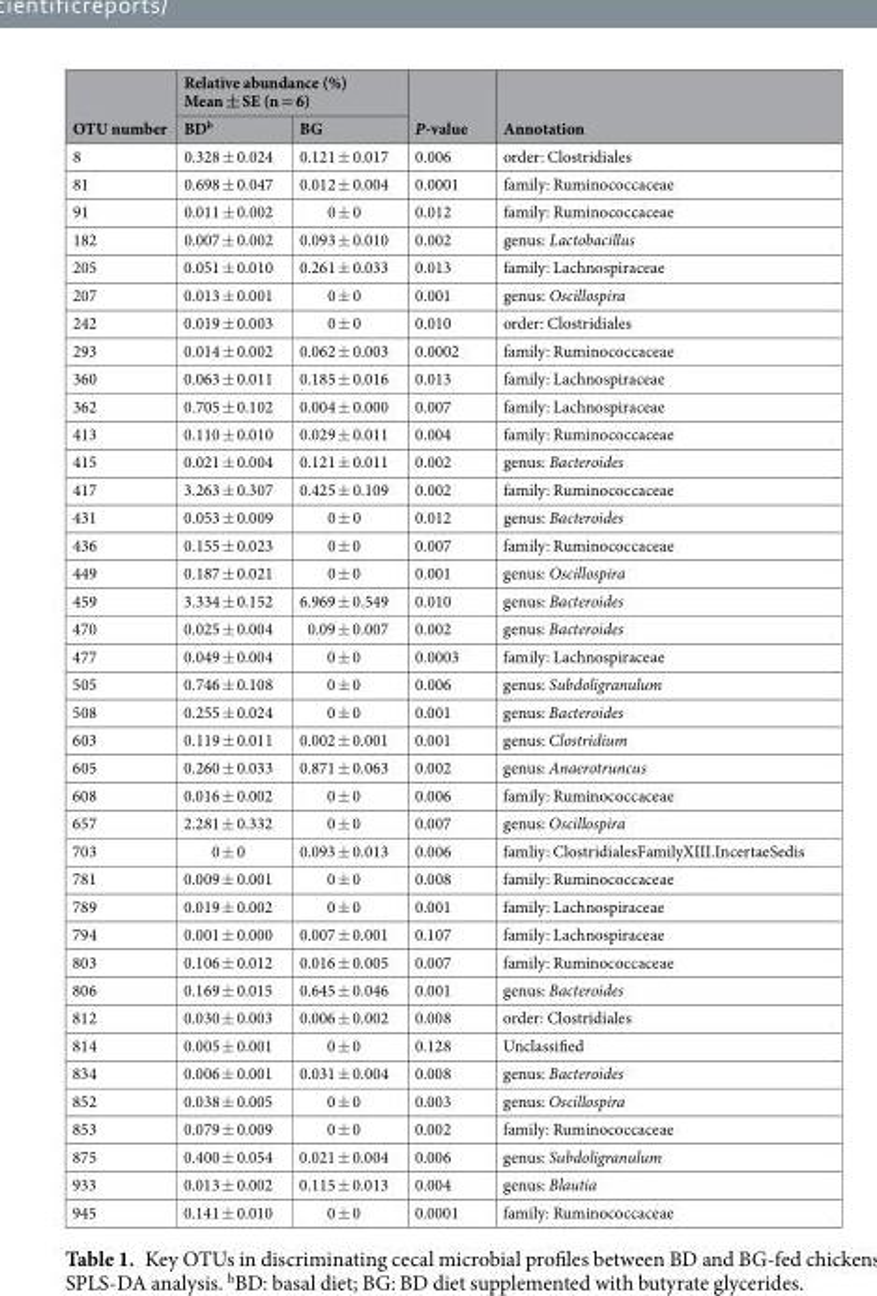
<table><thead><tr><td rowspan="2">OTU number</td><td colspan="2">Relative abundance (%) Mean ± SE (n = 6)</td><td rowspan="2">P-value</td><td rowspan="2">Annotation</td></tr><tr><td>BD<sup>b</sup></td><td>BG</td></tr></thead><tbody><tr><td>8</td><td>0.328 ± 0.024</td><td>0.121 ± 0.017</td><td>0.006</td><td>order: Clostridiales</td></tr><tr><td>81</td><td>0.698 ± 0.047</td><td>0.012 ± 0.004</td><td>0.0001</td><td>family: Ruminococcaceae</td></tr><tr><td>91</td><td>0.011 ± 0.002</td><td>0 ± 0</td><td>0.012</td><td>family: Ruminococcaceae</td></tr><tr><td>182</td><td>0.007 ± 0.002</td><td>0.093 ± 0.010</td><td>0.002</td><td>genus: Lactobacillus</td></tr><tr><td>205</td><td>0.051 ± 0.010</td><td>0.261 ± 0.033</td><td>0.013</td><td>family: Lachnospiraceae</td></tr><tr><td>207</td><td>0.013 ± 0.001</td><td>0 ± 0</td><td>0.001</td><td>genus: Oscillospira</td></tr><tr><td>242</td><td>0.019 ± 0.003</td><td>0 ± 0</td><td>0.010</td><td>order: Clostridiales</td></tr><tr><td>293</td><td>0.014 ± 0.002</td><td>0.062 ± 0.003</td><td>0.0002</td><td>family: Ruminococcaceae</td></tr><tr><td>360</td><td>0.063 ± 0.011</td><td>0.185 ± 0.016</td><td>0.013</td><td>family: Lachnospiraceae</td></tr><tr><td>362</td><td>0.705 ± 0.102</td><td>0.004 ± 0.000</td><td>0.007</td><td>family: Lachnospiraceae</td></tr><tr><td>413</td><td>0.110 ± 0.010</td><td>0.029 ± 0.011</td><td>0.004</td><td>family: Ruminococcaceae</td></tr><tr><td>415</td><td>0.021 ± 0.004</td><td>0.121 ± 0.011</td><td>0.002</td><td>genus: Bacteroides</td></tr><tr><td>417</td><td>3.263 ± 0.307</td><td>0.425 ± 0.109</td><td>0.002</td><td>family: Ruminococcaceae</td></tr><tr><td>431</td><td>0.053 ± 0.009</td><td>0 ± 0</td><td>0.012</td><td>genus: Bacteroides</td></tr><tr><td>436</td><td>0.155 ± 0.023</td><td>0 ± 0</td><td>0.007</td><td>family: Ruminococcaceae</td></tr><tr><td>449</td><td>0.187 ± 0.021</td><td>0 ± 0</td><td>0.001</td><td>genus: Oscillospira</td></tr><tr><td>459</td><td>3.334 ± 0.152</td><td>6.969 ± 0.549</td><td>0.010</td><td>genus: Bacteroides</td></tr><tr><td>470</td><td>0.025 ± 0.004</td><td>0.09 ± 0.007</td><td>0.002</td><td>genus: Bacteroides</td></tr><tr><td>477</td><td>0.049 ± 0.004</td><td>0 ± 0</td><td>0.0003</td><td>family: Lachnospiraceae</td></tr><tr><td>505</td><td>0.746 ± 0.108</td><td>0 ± 0</td><td>0.006</td><td>genus: Subdoligranulum</td></tr><tr><td>508</td><td>0.255 ± 0.024</td><td>0 ± 0</td><td>0.001</td><td>genus: Bacteroides</td></tr><tr><td>603</td><td>0.119 ± 0.011</td><td>0.002 ± 0.001</td><td>0.001</td><td>genus: Clostridium</td></tr><tr><td>605</td><td>0.260 ± 0.033</td><td>0.871 ± 0.063</td><td>0.002</td><td>genus: Anaerotruncus</td></tr><tr><td>608</td><td>0.016 ± 0.002</td><td>0 ± 0</td><td>0.006</td><td>family: Ruminococcaceae</td></tr><tr><td>657</td><td>2.281 ± 0.332</td><td>0 ± 0</td><td>0.007</td><td>genus: Oscillospira</td></tr><tr><td>703</td><td>0 ± 0</td><td>0.093 ± 0.013</td><td>0.006</td><td>famliy: ClostridialesFamilyXIII.IncertaeSedis</td></tr><tr><td>781</td><td>0.009 ± 0.001</td><td>0 ± 0</td><td>0.008</td><td>family: Ruminococcaceae</td></tr><tr><td>789</td><td>0.019 ± 0.002</td><td>0 ± 0</td><td>0.001</td><td>family: Lachnospiraceae</td></tr><tr><td>794</td><td>0.001 ± 0.000</td><td>0.007 ± 0.001</td><td>0.107</td><td>family: Lachnospiraceae</td></tr><tr><td>803</td><td>0.106 ± 0.012</td><td>0.016 ± 0.005</td><td>0.007</td><td>family: Ruminococcaceae</td></tr><tr><td>806</td><td>0.169 ± 0.015</td><td>0.645 ± 0.046</td><td>0.001</td><td>genus: Bacteroides</td></tr><tr><td>812</td><td>0.030 ± 0.003</td><td>0.006 ± 0.002</td><td>0.008</td><td>order: Clostridiales</td></tr><tr><td>814</td><td>0.005 ± 0.001</td><td>0 ± 0</td><td>0.128</td><td>Unclassified</td></tr><tr><td>834</td><td>0.006 ± 0.001</td><td>0.031 ± 0.004</td><td>0.008</td><td>genus: Bacteroides</td></tr><tr><td>852</td><td>0.038 ± 0.005</td><td>0 ± 0</td><td>0.003</td><td>genus: Oscillospira</td></tr><tr><td>853</td><td>0.079 ± 0.009</td><td>0 ± 0</td><td>0.002</td><td>family: Ruminococcaceae</td></tr><tr><td>875</td><td>0.400 ± 0.054</td><td>0.021 ± 0.004</td><td>0.006</td><td>genus: Subdoligranulum</td></tr><tr><td>933</td><td>0.013 ± 0.002</td><td>0.115 ± 0.013</td><td>0.004</td><td>genus: Blautia</td></tr><tr><td>945</td><td>0.141 ± 0.010</td><td>0 ± 0</td><td>0.0001</td><td>family: Ruminococcaceae</td></tr></tbody></table>